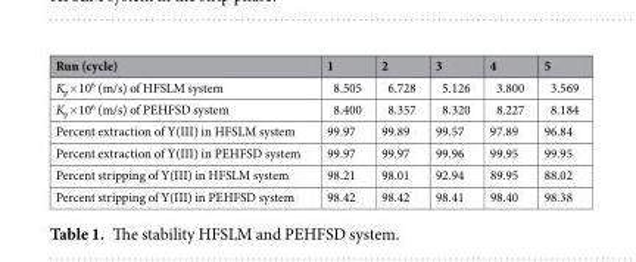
<table><thead><tr><td>Run (cycle)</td><td>1</td><td>2</td><td>3</td><td>4</td><td>5</td></tr></thead><tbody><tr><td>K<sub>p</sub>×10<sup>6</sup> (m/s) of HFSLM system</td><td>8.505</td><td>6.728</td><td>5.126</td><td>3.800</td><td>3.569</td></tr><tr><td>K<sub>p</sub>×10<sup>6</sup> (m/s) of PEHFSD system</td><td>8.400</td><td>8.357</td><td>8.320</td><td>8.227</td><td>8.184</td></tr><tr><td>Percent extraction of Y(III) in HFSLM system</td><td>99.97</td><td>99.89</td><td>99.57</td><td>97.89</td><td>96.84</td></tr><tr><td>Percent extraction of Y(III) in PEHFSD system</td><td>99.97</td><td>99.97</td><td>99.96</td><td>99.95</td><td>99.95</td></tr><tr><td>Percent stripping of Y(III) in HFSLM system</td><td>98.21</td><td>98.01</td><td>92.94</td><td>89.95</td><td>88.02</td></tr><tr><td>Percent stripping of Y(III) in PEHFSD system</td><td>98.42</td><td>98.42</td><td>98.41</td><td>98.40</td><td>98.38</td></tr></tbody></table>